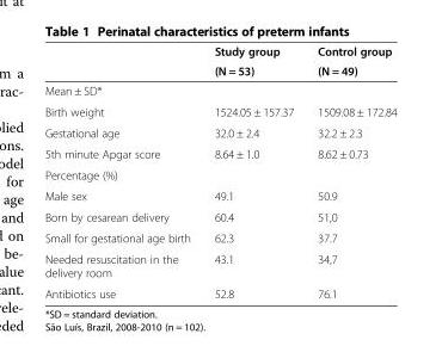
<table><thead><tr><td rowspan="2"></td><td rowspan="2">Study group (N = 53)</td><td rowspan="2">Control group (N = 49)</td></tr><tr></tr></thead><tbody><tr><td colspan="3">Mean ± SD*</td></tr><tr><td>Birth weight</td><td>1524.05 ± 157.37</td><td>1509.08 ± 172.84</td></tr><tr><td>Gestational age</td><td>32.0 ± 2.4</td><td>32.2 ± 2.3</td></tr><tr><td>5th minute Apgar score</td><td>8.64 ± 1.0</td><td>8.62 ± 0.73</td></tr><tr><td colspan="3">Percentage (%)</td></tr><tr><td>Male sex</td><td>49.1</td><td>50.9</td></tr><tr><td>Born by cesarean delivery</td><td>60.4</td><td>51,0</td></tr><tr><td>Small for gestational age birth</td><td>62.3</td><td>37.7</td></tr><tr><td>Needed resuscitation in the delivery room</td><td>43.1</td><td>34,7</td></tr><tr><td>Antibiotics use</td><td>52.8</td><td>76.1</td></tr></tbody></table>